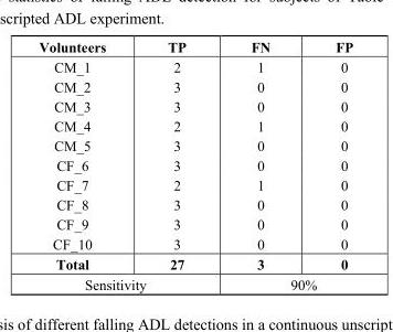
<table><thead><tr><td>Volunteers</td><td>TP</td><td>FN</td><td>FP</td></tr></thead><tbody><tr><td>CM_1</td><td>2</td><td>1</td><td>0</td></tr><tr><td>CM_2</td><td>3</td><td>0</td><td>0</td></tr><tr><td>CM_3</td><td>3</td><td>0</td><td>0</td></tr><tr><td>CM_4</td><td>2</td><td>1</td><td>0</td></tr><tr><td>CM_5</td><td>3</td><td>0</td><td>0</td></tr><tr><td>CF_6</td><td>3</td><td>0</td><td>0</td></tr><tr><td>CF_7</td><td>2</td><td>1</td><td>0</td></tr><tr><td>CF_8</td><td>3</td><td>0</td><td>0</td></tr><tr><td>CF_9</td><td>3</td><td>0</td><td>0</td></tr><tr><td>CF_10</td><td>3</td><td>0</td><td>0</td></tr><tr><td>Total</td><td>27</td><td>3</td><td>0</td></tr><tr><td colspan="2">Sensitivity</td><td colspan="2">90%</td></tr></tbody></table>